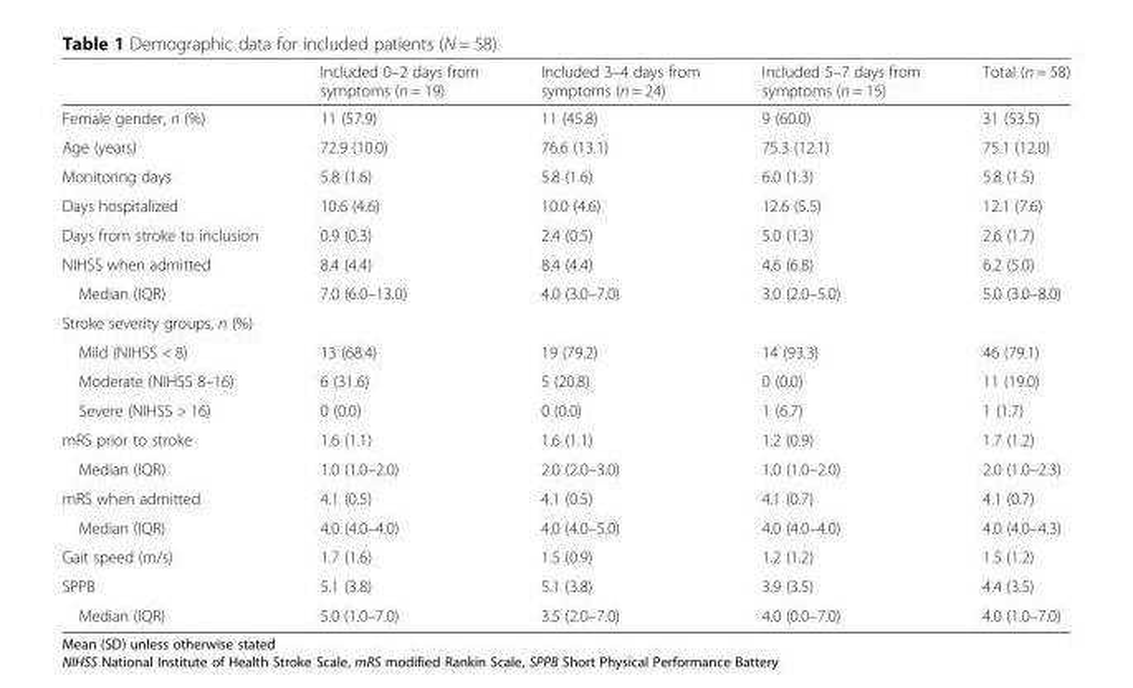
<table><thead><tr><td></td><td>Included 0–2 days from symptoms (n = 19)</td><td>Included 3–4 days from symptoms (n = 24)</td><td>Included 5–7 days from symptoms (n = 15)</td><td>Total (n = 58)</td></tr></thead><tbody><tr><td>Female gender, n (%)</td><td>11 (57.9)</td><td>11 (45.8)</td><td>9 (60.0)</td><td>31 (53.5)</td></tr><tr><td>Age (years)</td><td>72.9 (10.0)</td><td>76.6 (13.1)</td><td>75.3 (12.1)</td><td>75.1 (12.0)</td></tr><tr><td>Monitoring days</td><td>5.8 (1.6)</td><td>5.8 (1.6)</td><td>6.0 (1.3)</td><td>5.8 (1.5)</td></tr><tr><td>Days hospitalized</td><td>10.6 (4.6)</td><td>10.0 (4.6)</td><td>12.6 (5.5)</td><td>12.1 (7.6)</td></tr><tr><td>Days from stroke to inclusion</td><td>0.9 (0.3)</td><td>2.4 (0.5)</td><td>5.0 (1.3)</td><td>2.6 (1.7)</td></tr><tr><td>NIHSS when admitted</td><td>8.4 (4.4)</td><td>8.4 (4.4)</td><td>4.6 (6.8)</td><td>6.2 (5.0)</td></tr><tr><td>Median (IQR)</td><td>7.0 (6.0–13.0)</td><td>4.0 (3.0–7.0)</td><td>3.0 (2.0–5.0)</td><td>5.0 (3.0–8.0)</td></tr><tr><td colspan="5">Stroke severity groups, n (%)</td></tr><tr><td>Mild (NIHSS &lt; 8)</td><td>13 (68.4)</td><td>19 (79.2)</td><td>14 (93.3)</td><td>46 (79.1)</td></tr><tr><td>Moderate (NIHSS 8–16)</td><td>6 (31.6)</td><td>5 (20.8)</td><td>0 (0.0)</td><td>11 (19.0)</td></tr><tr><td>Severe (NIHSS &gt; 16)</td><td>0 (0.0)</td><td>0 (0.0)</td><td>1 (6.7)</td><td>1 (1.7)</td></tr><tr><td>mRS prior to stroke</td><td>1.6 (1.1)</td><td>1.6 (1.1)</td><td>1.2 (0.9)</td><td>1.7 (1.2)</td></tr><tr><td>Median (IQR)</td><td>1.0 (1.0–2.0)</td><td>2.0 (2.0–3.0)</td><td>1.0 (1.0–2.0)</td><td>2.0 (1.0–2.3)</td></tr><tr><td>mRS when admitted</td><td>4.1 (0.5)</td><td>4.1 (0.5)</td><td>4.1 (0.7)</td><td>4.1 (0.7)</td></tr><tr><td>Median (IQR)</td><td>4.0 (4.0–4.0)</td><td>4.0 (4.0–5.0)</td><td>4.0 (4.0–4.0)</td><td>4.0 (4.0–4.3)</td></tr><tr><td>Gait speed (m/s)</td><td>1.7 (1.6)</td><td>1.5 (0.9)</td><td>1.2 (1.2)</td><td>1.5 (1.2)</td></tr><tr><td>SPPB</td><td>5.1 (3.8)</td><td>5.1 (3.8)</td><td>3.9 (3.5)</td><td>4.4 (3.5)</td></tr><tr><td>Median (IQR)</td><td>5.0 (1.0–7.0)</td><td>3.5 (2.0–7.0)</td><td>4.0 (0.0–7.0)</td><td>4.0 (1.0–7.0)</td></tr></tbody></table>